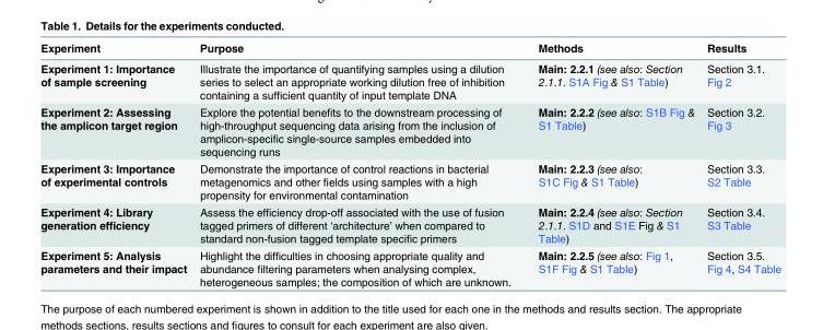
<table><thead><tr><td>Experiment</td><td>Purpose</td><td>Methods</td><td>Results</td></tr></thead><tbody><tr><td>Experiment 1: Importance of sample screening</td><td>Illustrate the importance of quantifying samples using a dilution series to select an appropriate working dilution free of inhibition containing a sufficient quantity of input template DNA</td><td>Main: 2.2.1 (see also: Section 2.1.1. S1A Fig &amp; S1 Table)</td><td>Section 3.1. Fig 2</td></tr><tr><td>Experiment 2: Assessing the amplicon target region</td><td>Explore the potential benefits to the downstream processing of high-throughput sequencing data arising from the inclusion of amplicon-specific single-source samples embedded into sequencing runs</td><td>Main: 2.2.2 (see also: S1B Fig &amp; S1 Table)</td><td>Section 3.2. Fig 3</td></tr><tr><td>Experiment 3: Importance of experimental controls</td><td>Demonstrate the importance of control reactions in bacterial metagenomics and other fields using samples with a high propensity for environmental contamination</td><td>Main: 2.2.3 (see also: S1C Fig &amp; S1 Table)</td><td>Section 3.3. S2 Table</td></tr><tr><td>Experiment 4: Library generation efficiency</td><td>Assess the efficiency drop-off associated with the use of fusion tagged primers of different ‘architecture’ when compared to standard non-fusion tagged template specific primers</td><td>Main: 2.2.4 (see also: Section 2.1.1. S1D and S1E Fig &amp; S1 Table)</td><td>Section 3.4. S3 Table</td></tr><tr><td>Experiment 5: Analysis parameters and their impact</td><td>Highlight the difficulties in choosing appropriate quality and abundance filtering parameters when analysing complex, heterogeneous samples; the composition of which are unknown.</td><td>Main: 2.2.5 (see also: Fig 1, S1F Fig &amp; S1 Table)</td><td>Section 3.5. Fig 4, S4 Table</td></tr></tbody></table>